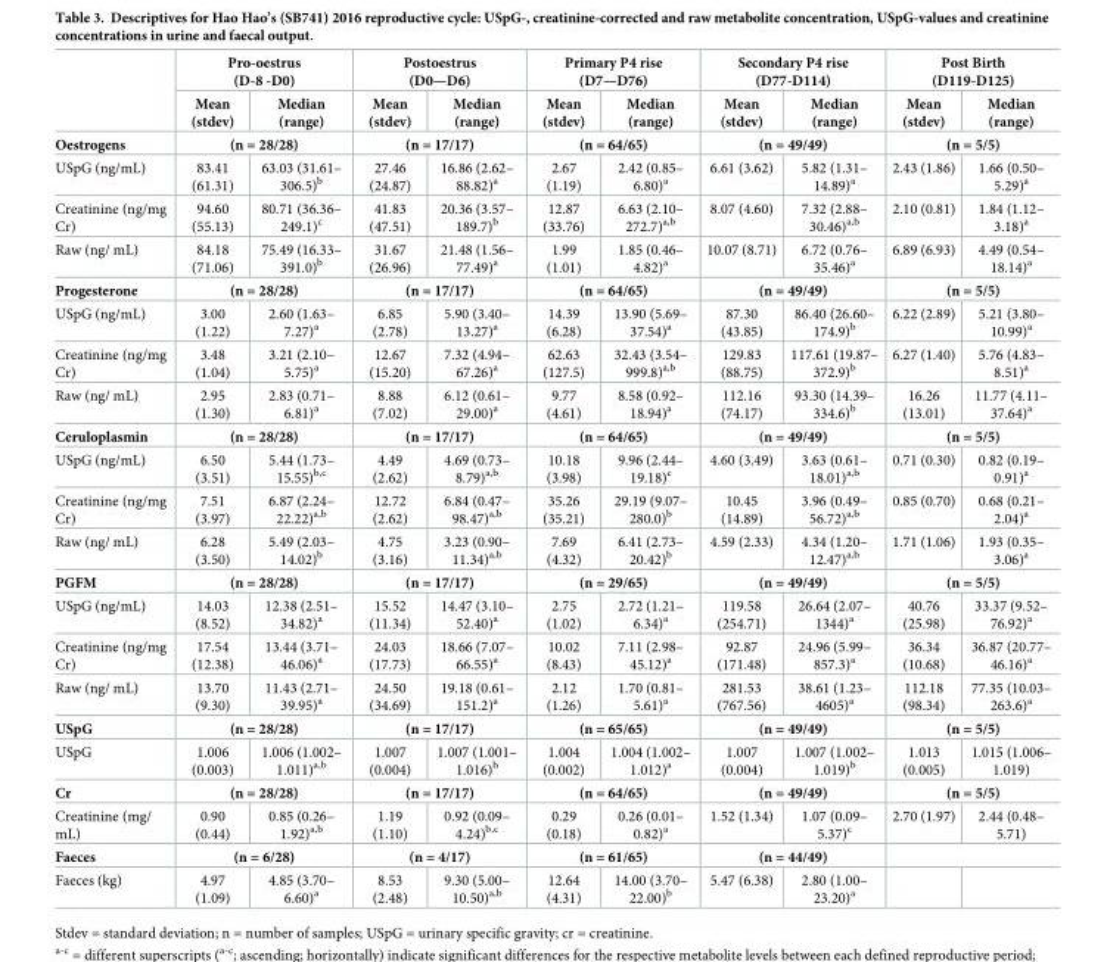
<table><thead><tr><td rowspan="2"></td><td colspan="2">Pro-oestrus (D-8 -D0)</td><td colspan="2">Postoestrus (D0—D6)</td><td colspan="2">Primary P4 rise (D7—D76)</td><td colspan="2">Secondary P4 rise (D77-D114)</td><td colspan="2">Post Birth (D119-D125)</td></tr><tr><td>Mean (stdev)</td><td>Median (range)</td><td>Mean (stdev)</td><td>Median (range)</td><td>Mean (stdev)</td><td>Median (range)</td><td>Mean (stdev)</td><td>Median (range)</td><td>Mean (stdev)</td><td>Median (range)</td></tr></thead><tbody><tr><td>Oestrogens</td><td colspan="2">(n = 28/28)</td><td colspan="2">(n = 17/17)</td><td colspan="2">(n = 64/65)</td><td colspan="2">(n = 49/49)</td><td colspan="2">(n = 5/5)</td></tr><tr><td>USpG (ng/mL)</td><td>83.41 (61.31)</td><td>63.03 (31.61– 306.5)<sup>b</sup></td><td>27.46 (24.87)</td><td>16.86 (2.62– 88.82)<sup>a</sup></td><td>2.67 (1.19)</td><td>2.42 (0.85– 6.80)<sup>a</sup></td><td>6.61 (3.62)</td><td>5.82 (1.31– 14.89)<sup>a</sup></td><td>2.43 (1.86)</td><td>1.66 (0.50– 5.29)<sup>a</sup></td></tr><tr><td>Creatinine (ng/mg Cr)</td><td>94.60 (55.13)</td><td>80.71 (36.36– 249.1)<sup>c</sup></td><td>41.83 (47.51)</td><td>20.36 (3.57– 189.7)<sup>b</sup></td><td>12.87 (33.76)</td><td>6.63 (2.10– 272.7)<sup>a,b</sup></td><td>8.07 (4.60)</td><td>7.32 (2.88– 30.46)<sup>a,b</sup></td><td>2.10 (0.81)</td><td>1.84 (1.12– 3.18)<sup>a</sup></td></tr><tr><td>Raw (ng/ mL)</td><td>84.18 (71.06)</td><td>75.49 (16.33– 391.0)<sup>b</sup></td><td>31.67 (26.96)</td><td>21.48 (1.56– 77.49)<sup>a</sup></td><td>1.99 (1.01)</td><td>1.85 (0.46– 4.82)<sup>a</sup></td><td>10.07 (8.71)</td><td>6.72 (0.76– 35.46)<sup>a</sup></td><td>6.89 (6.93)</td><td>4.49 (0.54– 18.14)<sup>a</sup></td></tr><tr><td>Progesterone</td><td colspan="2">(n = 28/28)</td><td colspan="2">(n = 17/17)</td><td colspan="2">(n = 64/65)</td><td colspan="2">(n = 49/49)</td><td colspan="2">(n = 5/5)</td></tr><tr><td>USpG (ng/mL)</td><td>3.00 (1.22)</td><td>2.60 (1.63– 7.27)<sup>a</sup></td><td>6.85 (2.78)</td><td>5.90 (3.40– 13.27)<sup>a</sup></td><td>14.39 (6.28)</td><td>13.90 (5.69– 37.54)<sup>a</sup></td><td>87.30 (43.85)</td><td>86.40 (26.60– 174.9)<sup>b</sup></td><td>6.22 (2.89)</td><td>5.21 (3.80– 10.99)<sup>a</sup></td></tr><tr><td>Creatinine (ng/mg Cr)</td><td>3.48 (1.04)</td><td>3.21 (2.10– 5.75)<sup>a</sup></td><td>12.67 (15.20)</td><td>7.32 (4.94– 67.26)<sup>a</sup></td><td>62.63 (127.5)</td><td>32.43 (3.54– 999.8)<sup>a,b</sup></td><td>129.83 (88.75)</td><td>117.61 (19.87– 372.9)<sup>b</sup></td><td>6.27 (1.40)</td><td>5.76 (4.83– 8.51)<sup>a</sup></td></tr><tr><td>Raw (ng/ mL)</td><td>2.95 (1.30)</td><td>2.83 (0.71– 6.81)<sup>a</sup></td><td>8.88 (7.02)</td><td>6.12 (0.61– 29.00)<sup>a</sup></td><td>9.77 (4.61)</td><td>8.58 (0.92– 18.94)<sup>a</sup></td><td>112.16 (74.17)</td><td>93.30 (14.39– 334.6)<sup>b</sup></td><td>16.26 (13.01)</td><td>11.77 (4.11– 37.64)<sup>a</sup></td></tr><tr><td>Ceruloplasmin</td><td colspan="2">(n = 28/28)</td><td colspan="2">(n = 17/17)</td><td colspan="2">(n = 64/65)</td><td colspan="2">(n = 49/49)</td><td colspan="2">(n = 5/5)</td></tr><tr><td>USpG (ng/mL)</td><td>6.50 (3.51)</td><td>5.44 (1.73– 15.55)<sup>b,c</sup></td><td>4.49 (2.62)</td><td>4.69 (0.73– 8.79)<sup>a,b</sup></td><td>10.18 (3.98)</td><td>9.96 (2.44– 19.18)<sup>c</sup></td><td>4.60 (3.49)</td><td>3.63 (0.61– 18.01)<sup>a,b</sup></td><td>0.71 (0.30)</td><td>0.82 (0.19– 0.91)<sup>a</sup></td></tr><tr><td>Creatinine (ng/mg Cr)</td><td>7.51 (3.97)</td><td>6.87 (2.24– 22.22)<sup>a,b</sup></td><td>12.72 (2.62)</td><td>6.84 (0.47– 98.47)<sup>a,b</sup></td><td>35.26 (35.21)</td><td>29.19 (9.07– 280.0)<sup>b</sup></td><td>10.45 (14.89)</td><td>3.96 (0.49– 56.72)<sup>a,b</sup></td><td>0.85 (0.70)</td><td>0.68 (0.21– 2.04)<sup>a</sup></td></tr><tr><td>Raw (ng/ mL)</td><td>6.28 (3.50)</td><td>5.49 (2.03– 14.02)<sup>b</sup></td><td>4.75 (3.16)</td><td>3.23 (0.90– 11.34)<sup>a,b</sup></td><td>7.69 (4.32)</td><td>6.41 (2.73– 20.42)<sup>b</sup></td><td>4.59 (2.33)</td><td>4.34 (1.20– 12.47)<sup>a,b</sup></td><td>1.71 (1.06)</td><td>1.93 (0.35– 3.06)<sup>a</sup></td></tr><tr><td>PGFM</td><td colspan="2">(n = 28/28)</td><td colspan="2">(n = 17/17)</td><td colspan="2">(n = 29/65)</td><td colspan="2">(n = 49/49)</td><td colspan="2">(n = 5/5)</td></tr><tr><td>USpG (ng/mL)</td><td>14.03 (8.52)</td><td>12.38 (2.51– 34.82)<sup>a</sup></td><td>15.52 (11.34)</td><td>14.47 (3.10– 52.40)<sup>a</sup></td><td>2.75 (1.02)</td><td>2.72 (1.21– 6.34)<sup>a</sup></td><td>119.58 (254.71)</td><td>26.64 (2.07– 1344)<sup>a</sup></td><td>40.76 (25.98)</td><td>33.37 (9.52– 76.92)<sup>a</sup></td></tr><tr><td>Creatinine (ng/mg Cr)</td><td>17.54 (12.38)</td><td>13.44 (3.71– 46.06)<sup>a</sup></td><td>24.03 (17.73)</td><td>18.66 (7.07– 66.55)<sup>a</sup></td><td>10.02 (8.43)</td><td>7.11 (2.98– 45.12)<sup>a</sup></td><td>92.87 (171.48)</td><td>24.96 (5.99– 857.3)<sup>a</sup></td><td>36.34 (10.68)</td><td>36.87 (20.77– 46.16)<sup>a</sup></td></tr><tr><td>Raw (ng/ mL)</td><td>13.70 (9.30)</td><td>11.43 (2.71– 39.95)<sup>a</sup></td><td>24.50 (34.69)</td><td>19.18 (0.61– 151.2)<sup>a</sup></td><td>2.12 (1.26)</td><td>1.70 (0.81– 5.61)<sup>a</sup></td><td>281.53 (767.56)</td><td>38.61 (1.23– 4605)<sup>a</sup></td><td>112.18 (98.34)</td><td>77.35 (10.03– 263.6)<sup>a</sup></td></tr><tr><td>USpG</td><td colspan="2">(n = 28/28)</td><td colspan="2">(n = 17/17)</td><td colspan="2">(n = 65/65)</td><td colspan="2">(n = 49/49)</td><td colspan="2">(n = 5/5)</td></tr><tr><td>USpG</td><td>1.006 (0.003)</td><td>1.006 (1.002– 1.011)<sup>a,b</sup></td><td>1.007 (0.004)</td><td>1.007 (1.001– 1.016)<sup>b</sup></td><td>1.004 (0.002)</td><td>1.004 (1.002– 1.012)<sup>a</sup></td><td>1.007 (0.004)</td><td>1.007 (1.002– 1.019)<sup>b</sup></td><td>1.013 (0.005)</td><td>1.015 (1.006– 1.019)</td></tr><tr><td>Cr</td><td colspan="2">(n = 28/28)</td><td colspan="2">(n = 17/17)</td><td colspan="2">(n = 64/65)</td><td colspan="2">(n = 49/49)</td><td colspan="2">(n = 5/5)</td></tr><tr><td>Creatinine (mg/ mL)</td><td>0.90 (0.44)</td><td>0.85 (0.26– 1.92)<sup>a,b</sup></td><td>1.19 (1.10)</td><td>0.92 (0.09– 4.24)<sup>b,c</sup></td><td>0.29 (0.18)</td><td>0.26 (0.01– 0.82)<sup>a</sup></td><td>1.52 (1.34)</td><td>1.07 (0.09– 5.37)<sup>c</sup></td><td>2.70 (1.97)</td><td>2.44 (0.48– 5.71)</td></tr><tr><td>Faeces</td><td colspan="2">(n = 6/28)</td><td colspan="2">(n = 4/17)</td><td colspan="2">(n = 61/65)</td><td colspan="2">(n = 44/49)</td><td colspan="2"></td></tr><tr><td>Faeces (kg)</td><td>4.97 (1.09)</td><td>4.85 (3.70– 6.60)<sup>a</sup></td><td>8.53 (2.48)</td><td>9.30 (5.00– 10.50)<sup>a,b</sup></td><td>12.64 (4.31)</td><td>14.00 (3.70– 22.00)<sup>b</sup></td><td>5.47 (6.38)</td><td>2.80 (1.00– 23.20)<sup>a</sup></td><td></td><td></td></tr></tbody></table>